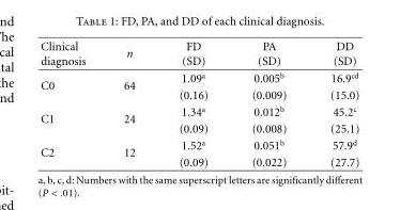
<table><thead><tr><td rowspan="2">Clinical diagnosis</td><td rowspan="2">n</td><td rowspan="2">FD (SD)</td><td rowspan="2">PA (SD)</td><td rowspan="2">DD (SD)</td></tr><tr></tr></thead><tbody><tr><td rowspan="2">C0</td><td rowspan="2">64</td><td>1.09<sup>a</sup></td><td>0.005<sup>b</sup></td><td>16.9<sup>cd</sup></td></tr><tr><td>(0.16)</td><td>(0.009)</td><td>(15.0)</td></tr><tr><td rowspan="2">C1</td><td rowspan="2">24</td><td>1.34<sup>a</sup></td><td>0.012<sup>b</sup></td><td>45.2<sup>c</sup></td></tr><tr><td>(0.09)</td><td>(0.008)</td><td>(25.1)</td></tr><tr><td rowspan="2">C2</td><td rowspan="2">12</td><td>1.52<sup>a</sup></td><td>0.051<sup>b</sup></td><td>57.9<sup>d</sup></td></tr><tr><td>(0.09)</td><td>(0.022)</td><td>(27.7)</td></tr></tbody></table>